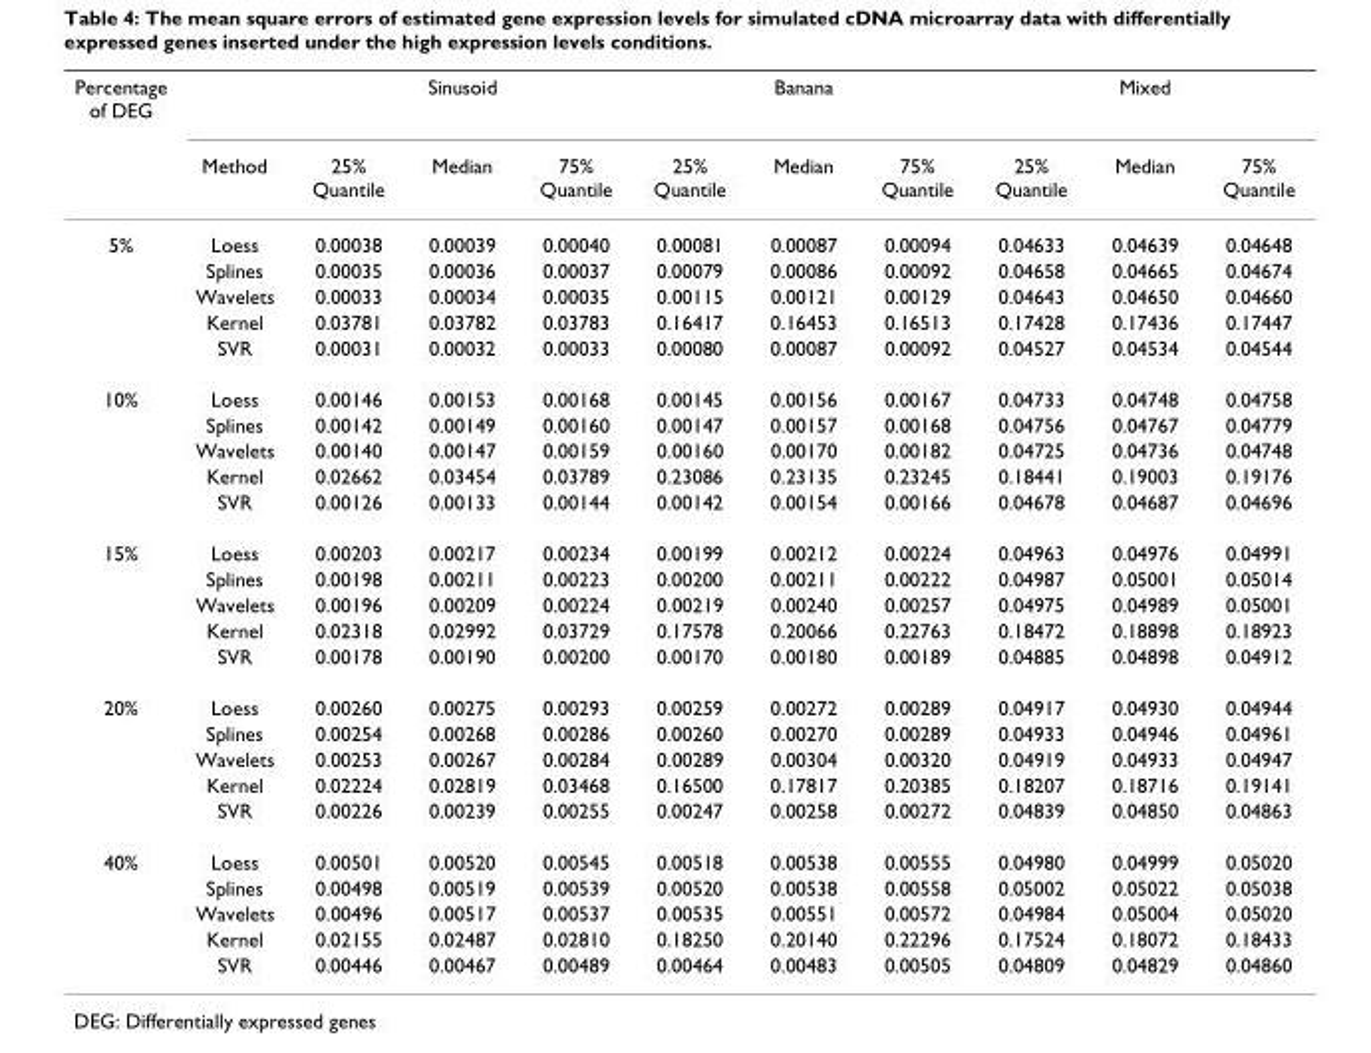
<table><thead><tr><td rowspan="2">Percentage of DEG</td><td rowspan="2">Method</td><td colspan="3">Sinusoid</td><td colspan="3">Banana</td><td colspan="3">Mixed</td></tr><tr><td>25% Quantile</td><td>Median</td><td>75% Quantile</td><td>25% Quantile</td><td>Median</td><td>75% Quantile</td><td>25% Quantile</td><td>Median</td><td>75% Quantile</td></tr></thead><tbody><tr><td rowspan="5">5%</td><td>Loess</td><td>0.00038</td><td>0.00039</td><td>0.00040</td><td>0.00081</td><td>0.00087</td><td>0.00094</td><td>0.04633</td><td>0.04639</td><td>0.04648</td></tr><tr><td>Splines</td><td>0.00035</td><td>0.00036</td><td>0.00037</td><td>0.00079</td><td>0.00086</td><td>0.00092</td><td>0.04658</td><td>0.04665</td><td>0.04674</td></tr><tr><td>Wavelets</td><td>0.00033</td><td>0.00034</td><td>0.00035</td><td>0.00115</td><td>0.00121</td><td>0.00129</td><td>0.04643</td><td>0.04650</td><td>0.04660</td></tr><tr><td>Kernel</td><td>0.03781</td><td>0.03782</td><td>0.03783</td><td>0.16417</td><td>0.16453</td><td>0.16513</td><td>0.17428</td><td>0.17436</td><td>0.17447</td></tr><tr><td>SVR</td><td>0.00031</td><td>0.00032</td><td>0.00033</td><td>0.00080</td><td>0.00087</td><td>0.00092</td><td>0.04527</td><td>0.04534</td><td>0.04544</td></tr><tr><td rowspan="5">10%</td><td>Loess</td><td>0.00146</td><td>0.00153</td><td>0.00168</td><td>0.00145</td><td>0.00156</td><td>0.00167</td><td>0.04733</td><td>0.04748</td><td>0.04758</td></tr><tr><td>Splines</td><td>0.00142</td><td>0.00149</td><td>0.00160</td><td>0.00147</td><td>0.00157</td><td>0.00168</td><td>0.04756</td><td>0.04767</td><td>0.04779</td></tr><tr><td>Wavelets</td><td>0.00140</td><td>0.00147</td><td>0.00159</td><td>0.00160</td><td>0.00170</td><td>0.00182</td><td>0.04725</td><td>0.04736</td><td>0.04748</td></tr><tr><td>Kernel</td><td>0.02662</td><td>0.03454</td><td>0.03789</td><td>0.23086</td><td>0.23135</td><td>0.23245</td><td>0.18441</td><td>0.19003</td><td>0.19176</td></tr><tr><td>SVR</td><td>0.00126</td><td>0.00133</td><td>0.00144</td><td>0.00142</td><td>0.00154</td><td>0.00166</td><td>0.04678</td><td>0.04687</td><td>0.04696</td></tr><tr><td rowspan="5">15%</td><td>Loess</td><td>0.00203</td><td>0.00217</td><td>0.00234</td><td>0.00199</td><td>0.00212</td><td>0.00224</td><td>0.04963</td><td>0.04976</td><td>0.04991</td></tr><tr><td>Splines</td><td>0.00198</td><td>0.00211</td><td>0.00223</td><td>0.00200</td><td>0.00211</td><td>0.00222</td><td>0.04987</td><td>0.05001</td><td>0.05014</td></tr><tr><td>Wavelets</td><td>0.00196</td><td>0.00209</td><td>0.00224</td><td>0.00219</td><td>0.00240</td><td>0.00257</td><td>0.04975</td><td>0.04989</td><td>0.05001</td></tr><tr><td>Kernel</td><td>0.02318</td><td>0.02992</td><td>0.03729</td><td>0.17578</td><td>0.20066</td><td>0.22763</td><td>0.18472</td><td>0.18898</td><td>0.18923</td></tr><tr><td>SVR</td><td>0.00178</td><td>0.00190</td><td>0.00200</td><td>0.00170</td><td>0.00180</td><td>0.00189</td><td>0.04885</td><td>0.04898</td><td>0.04912</td></tr><tr><td rowspan="5">20%</td><td>Loess</td><td>0.00260</td><td>0.00275</td><td>0.00293</td><td>0.00259</td><td>0.00272</td><td>0.00289</td><td>0.04917</td><td>0.04930</td><td>0.04944</td></tr><tr><td>Splines</td><td>0.00254</td><td>0.00268</td><td>0.00286</td><td>0.00260</td><td>0.00270</td><td>0.00289</td><td>0.04933</td><td>0.04946</td><td>0.04961</td></tr><tr><td>Wavelets</td><td>0.00253</td><td>0.00267</td><td>0.00284</td><td>0.00289</td><td>0.00304</td><td>0.00320</td><td>0.04919</td><td>0.04933</td><td>0.04947</td></tr><tr><td>Kernel</td><td>0.02224</td><td>0.02819</td><td>0.03468</td><td>0.16500</td><td>0.17817</td><td>0.20385</td><td>0.18207</td><td>0.18716</td><td>0.19141</td></tr><tr><td>SVR</td><td>0.00226</td><td>0.00239</td><td>0.00255</td><td>0.00247</td><td>0.00258</td><td>0.00272</td><td>0.04839</td><td>0.04850</td><td>0.04863</td></tr><tr><td rowspan="5">40%</td><td>Loess</td><td>0.00501</td><td>0.00520</td><td>0.00545</td><td>0.00518</td><td>0.00538</td><td>0.00555</td><td>0.04980</td><td>0.04999</td><td>0.05020</td></tr><tr><td>Splines</td><td>0.00498</td><td>0.00519</td><td>0.00539</td><td>0.00520</td><td>0.00538</td><td>0.00558</td><td>0.05002</td><td>0.05022</td><td>0.05038</td></tr><tr><td>Wavelets</td><td>0.00496</td><td>0.00517</td><td>0.00537</td><td>0.00535</td><td>0.00551</td><td>0.00572</td><td>0.04984</td><td>0.05004</td><td>0.05020</td></tr><tr><td>Kernel</td><td>0.02155</td><td>0.02487</td><td>0.02810</td><td>0.18250</td><td>0.20140</td><td>0.22296</td><td>0.17524</td><td>0.18072</td><td>0.18433</td></tr><tr><td>SVR</td><td>0.00446</td><td>0.00467</td><td>0.00489</td><td>0.00464</td><td>0.00483</td><td>0.00505</td><td>0.04809</td><td>0.04829</td><td>0.04860</td></tr></tbody></table>